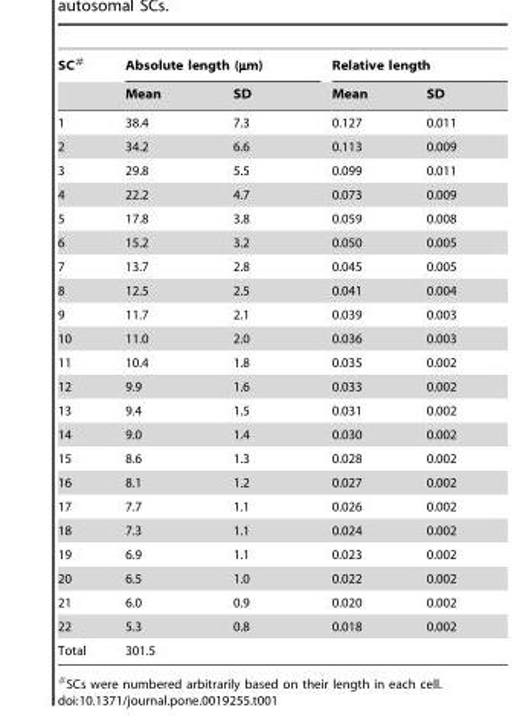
<table><thead><tr><td rowspan="2">SC#</td><td colspan="2">Absolute length (µm)</td><td colspan="2">Relative length</td></tr><tr><td>Mean</td><td>SD</td><td>Mean</td><td>SD</td></tr></thead><tbody><tr><td>1</td><td>38.4</td><td>7.3</td><td>0.127</td><td>0.011</td></tr><tr><td>2</td><td>34.2</td><td>6.6</td><td>0.113</td><td>0.009</td></tr><tr><td>3</td><td>29.8</td><td>5.5</td><td>0.099</td><td>0.011</td></tr><tr><td>4</td><td>22.2</td><td>4.7</td><td>0.073</td><td>0.009</td></tr><tr><td>5</td><td>17.8</td><td>3.8</td><td>0.059</td><td>0.008</td></tr><tr><td>6</td><td>15.2</td><td>3.2</td><td>0.050</td><td>0.005</td></tr><tr><td>7</td><td>13.7</td><td>2.8</td><td>0.045</td><td>0.005</td></tr><tr><td>8</td><td>12.5</td><td>2.5</td><td>0.041</td><td>0.004</td></tr><tr><td>9</td><td>11.7</td><td>2.1</td><td>0.039</td><td>0.003</td></tr><tr><td>10</td><td>11.0</td><td>2.0</td><td>0.036</td><td>0.003</td></tr><tr><td>11</td><td>10.4</td><td>1.8</td><td>0.035</td><td>0.002</td></tr><tr><td>12</td><td>9.9</td><td>1.6</td><td>0.033</td><td>0.002</td></tr><tr><td>13</td><td>9.4</td><td>1.5</td><td>0.031</td><td>0.002</td></tr><tr><td>14</td><td>9.0</td><td>1.4</td><td>0.030</td><td>0.002</td></tr><tr><td>15</td><td>8.6</td><td>1.3</td><td>0.028</td><td>0.002</td></tr><tr><td>16</td><td>8.1</td><td>1.2</td><td>0.027</td><td>0.002</td></tr><tr><td>17</td><td>7.7</td><td>1.1</td><td>0.026</td><td>0.002</td></tr><tr><td>18</td><td>7.3</td><td>1.1</td><td>0.024</td><td>0.002</td></tr><tr><td>19</td><td>6.9</td><td>1.1</td><td>0.023</td><td>0.002</td></tr><tr><td>20</td><td>6.5</td><td>1.0</td><td>0.022</td><td>0.002</td></tr><tr><td>21</td><td>6.0</td><td>0.9</td><td>0.020</td><td>0.002</td></tr><tr><td>22</td><td>5.3</td><td>0.8</td><td>0.018</td><td>0.002</td></tr><tr><td>Total</td><td>301.5</td><td></td><td></td><td></td></tr></tbody></table>